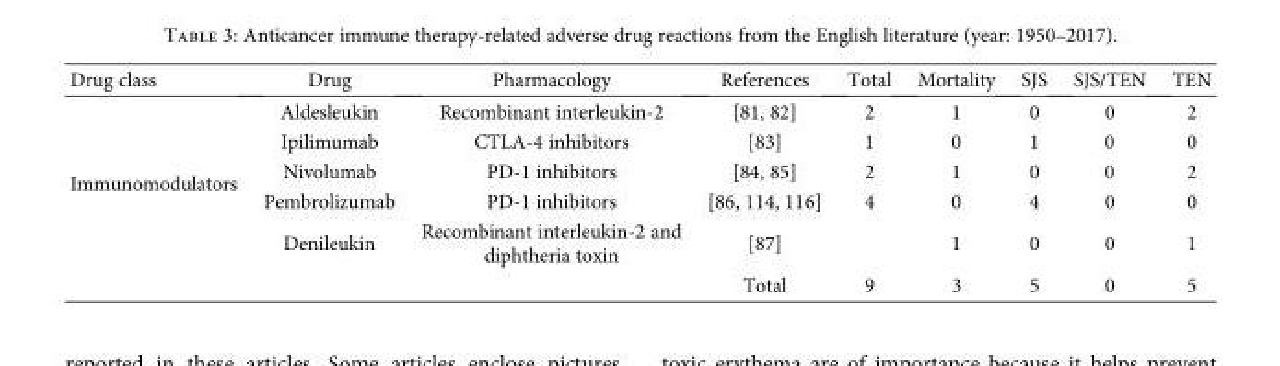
<table><thead><tr><td>Drug class</td><td>Drug</td><td>Pharmacology</td><td>References</td><td>Total</td><td>Mortality</td><td>SJS</td><td>SJS/TEN</td><td>TEN</td></tr></thead><tbody><tr><td rowspan="6">Immunomodulators</td><td>Aldesleukin</td><td>Recombinant interleukin-2</td><td>[81, 82]</td><td>2</td><td>1</td><td>0</td><td>0</td><td>2</td></tr><tr><td>Ipilimumab</td><td>CTLA-4 inhibitors</td><td>[83]</td><td>1</td><td>0</td><td>1</td><td>0</td><td>0</td></tr><tr><td>Nivolumab</td><td>PD-1 inhibitors</td><td>[84, 85]</td><td>2</td><td>1</td><td>0</td><td>0</td><td>2</td></tr><tr><td>Pembrolizumab</td><td>PD-1 inhibitors</td><td>[86, 114, 116]</td><td>4</td><td>0</td><td>4</td><td>0</td><td>0</td></tr><tr><td>Denileukin</td><td>Recombinant interleukin-2 and diphtheria toxin</td><td>[87]</td><td></td><td>1</td><td>0</td><td>0</td><td>1</td></tr><tr><td></td><td></td><td>Total</td><td>9</td><td>3</td><td>5</td><td>0</td><td>5</td></tr></tbody></table>